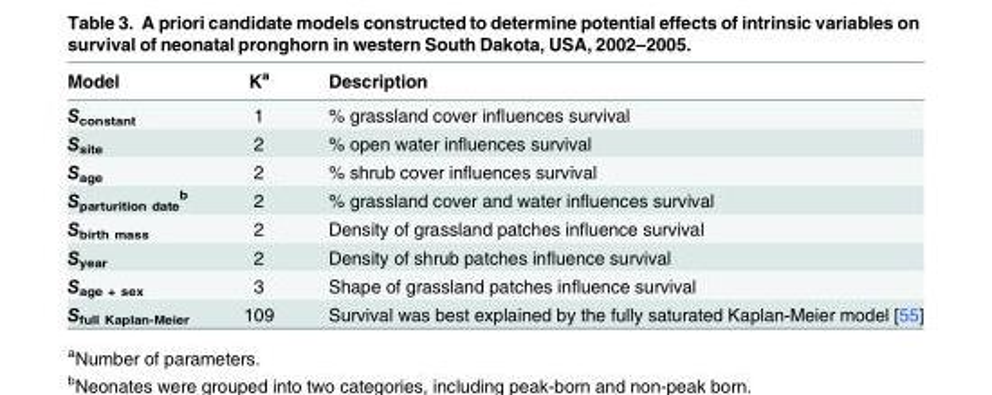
<table><thead><tr><td>Model</td><td>K<sup>a</sup></td><td>Description</td></tr></thead><tbody><tr><td>S<sub>constant</sub></td><td>1</td><td>% grassland cover influences survival</td></tr><tr><td>S<sub>site</sub></td><td>2</td><td>% open water influences survival</td></tr><tr><td>S<sub>age</sub></td><td>2</td><td>% shrub cover influences survival</td></tr><tr><td>S<sub>parturition date</sub> <sup>b</sup></td><td>2</td><td>% grassland cover and water influences survival</td></tr><tr><td>S<sub>birth mass</sub></td><td>2</td><td>Density of grassland patches influence survival</td></tr><tr><td>S<sub>year</sub></td><td>2</td><td>Density of shrub patches influence survival</td></tr><tr><td>S<sub>age + sex</sub></td><td>3</td><td>Shape of grassland patches influence survival</td></tr><tr><td>S<sub>full Kaplan-Meier</sub></td><td>109</td><td>Survival was best explained by the fully saturated Kaplan-Meier model [55]</td></tr></tbody></table>